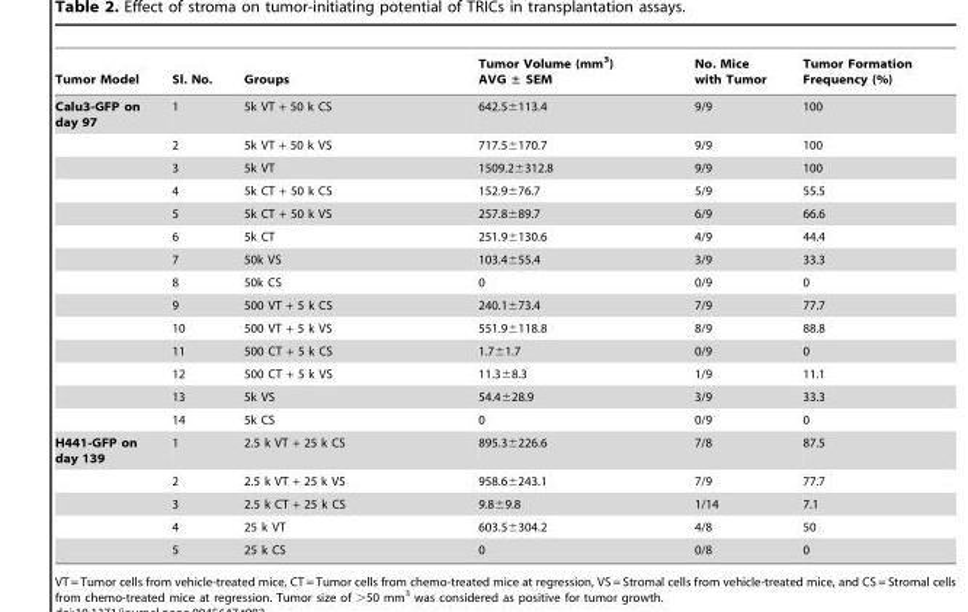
<table><thead><tr><td>Tumor Model</td><td>Sl. No.</td><td>Groups</td><td>Tumor Volume (mm<sup>3</sup>) AVG ± SEM</td><td>No. Mice with Tumor</td><td>Tumor Formation Frequency (%)</td></tr></thead><tbody><tr><td rowspan="14">Calu3-GFP on day 97</td><td>1</td><td>5k VT + 50 k CS</td><td>642.5±113.4</td><td>9/9</td><td>100</td></tr><tr><td>2</td><td>5k VT + 50 k VS</td><td>717.5±170.7</td><td>9/9</td><td>100</td></tr><tr><td>3</td><td>5k VT</td><td>1509.2±312.8</td><td>9/9</td><td>100</td></tr><tr><td>4</td><td>5k CT + 50 k CS</td><td>152.9±76.7</td><td>5/9</td><td>55.5</td></tr><tr><td>5</td><td>5k CT + 50 k VS</td><td>257.8±89.7</td><td>6/9</td><td>66.6</td></tr><tr><td>6</td><td>5k CT</td><td>251.9±130.6</td><td>4/9</td><td>44.4</td></tr><tr><td>7</td><td>50k VS</td><td>103.4±55.4</td><td>3/9</td><td>33.3</td></tr><tr><td>8</td><td>50k CS</td><td>0</td><td>0/9</td><td>0</td></tr><tr><td>9</td><td>500 VT + 5 k CS</td><td>240.1±73.4</td><td>7/9</td><td>77.7</td></tr><tr><td>10</td><td>500 VT + 5 k VS</td><td>551.9±118.8</td><td>8/9</td><td>88.8</td></tr><tr><td>11</td><td>500 CT + 5 k CS</td><td>1.7±1.7</td><td>0/9</td><td>0</td></tr><tr><td>12</td><td>500 CT + 5 k VS</td><td>11.3±8.3</td><td>1/9</td><td>11.1</td></tr><tr><td>13</td><td>5k VS</td><td>54.4±28.9</td><td>3/9</td><td>33.3</td></tr><tr><td>14</td><td>5k CS</td><td>0</td><td>0/9</td><td>0</td></tr><tr><td rowspan="5">H441-GFP on day 139</td><td>1</td><td>2.5 k VT + 25 k CS</td><td>895.3±226.6</td><td>7/8</td><td>87.5</td></tr><tr><td>2</td><td>2.5 k VT + 25 k VS</td><td>958.6±243.1</td><td>7/9</td><td>77.7</td></tr><tr><td>3</td><td>2.5 k CT + 25 k CS</td><td>9.8±9.8</td><td>1/14</td><td>7.1</td></tr><tr><td>4</td><td>25 k VT</td><td>603.5±304.2</td><td>4/8</td><td>50</td></tr><tr><td>5</td><td>25 k CS</td><td>0</td><td>0/8</td><td>0</td></tr></tbody></table>